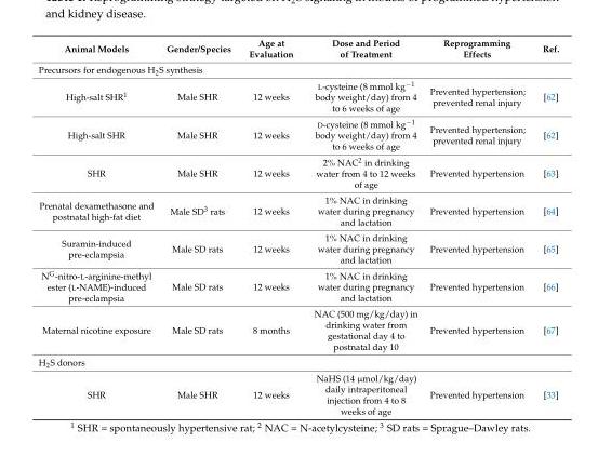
<table><thead><tr><td>Animal Models</td><td>Gender/Species</td><td>Age at Evaluation</td><td>Dose and Period of Treatment</td><td>Reprogramming Effects</td><td>Ref.</td></tr></thead><tbody><tr><td colspan="6">Precursors for endogenous H<sub>2</sub>S synthesis</td></tr><tr><td>High-salt SHR<sup>1</sup></td><td>Male SHR</td><td>12 weeks</td><td>L-cysteine (8 mmol kg<sup>−1</sup> body weight/day) from 4 to 6 weeks of age</td><td>Prevented hypertension; prevented renal injury</td><td>[62]</td></tr><tr><td>High-salt SHR</td><td>Male SHR</td><td>12 weeks</td><td>D-cysteine (8 mmol kg<sup>−1</sup> body weight/day) from 4 to 6 weeks of age</td><td>Prevented hypertension; prevented renal injury</td><td>[62]</td></tr><tr><td>SHR</td><td>Male SHR</td><td>12 weeks</td><td>2% NAC<sup>2</sup> in drinking water from 4 to 12 weeks of age</td><td>Prevented hypertension</td><td>[63]</td></tr><tr><td>Prenatal dexamethasone and postnatal high-fat diet</td><td>Male SD<sup>3</sup> rats</td><td>12 weeks</td><td>1% NAC in drinking water during pregnancy and lactation</td><td>Prevented hypertension</td><td>[64]</td></tr><tr><td>Suramin-induced pre-eclampsia</td><td>Male SD rats</td><td>12 weeks</td><td>1% NAC in drinking water during pregnancy and lactation</td><td>Prevented hypertension</td><td>[65]</td></tr><tr><td>N<sup>G</sup>-nitro-L-arginine-methyl ester (L-NAME)-induced pre-eclampsia</td><td>Male SD rats</td><td>12 weeks</td><td>1% NAC in drinking water during pregnancy and lactation</td><td>Prevented hypertension</td><td>[66]</td></tr><tr><td>Maternal nicotine exposure</td><td>Male SD rats</td><td>8 months</td><td>NAC (500 mg/kg/day) in drinking water from gestational day 4 to postnatal day 10</td><td>Prevented hypertension</td><td>[67]</td></tr><tr><td colspan="6">H<sub>2</sub>S donors</td></tr><tr><td>SHR</td><td>Male SHR</td><td>12 weeks</td><td>NaHS (14 µmol/kg/day) daily intraperitoneal injection from 4 to 8 weeks of age</td><td>Prevented hypertension</td><td>[33]</td></tr></tbody></table>